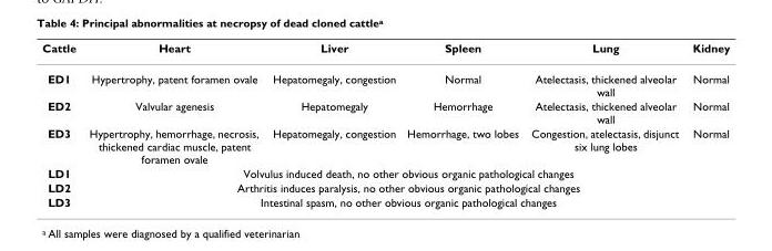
<table><thead><tr><td>Cattle</td><td>Heart</td><td>Liver</td><td>Spleen</td><td>Lung</td><td>Kidney</td></tr></thead><tbody><tr><td>ED1</td><td>Hypertrophy, patent foramen ovale</td><td>Hepatomegaly, congestion</td><td>Normal</td><td>Atelectasis, thickened alveolar wall</td><td>Normal</td></tr><tr><td>ED2</td><td>Valvular agenesis</td><td>Hepatomegaly</td><td>Hemorrhage</td><td>Atelectasis, thickened alveolar wall</td><td>Normal</td></tr><tr><td>ED3</td><td>Hypertrophy, hemorrhage, necrosis, thickened cardiac muscle, patent foramen ovale</td><td>Hepatomegaly, congestion</td><td>Hemorrhage, two lobes</td><td>Congestion, atelectasis, disjunct six lung lobes</td><td>Normal</td></tr><tr><td>LD1</td><td colspan="5">Volvulus induced death, no other obvious organic pathological changes</td></tr><tr><td>LD2</td><td colspan="5">Arthritis induces paralysis, no other obvious organic pathological changes</td></tr><tr><td>LD3</td><td colspan="5">Intestinal spasm, no other obvious organic pathological changes</td></tr></tbody></table>